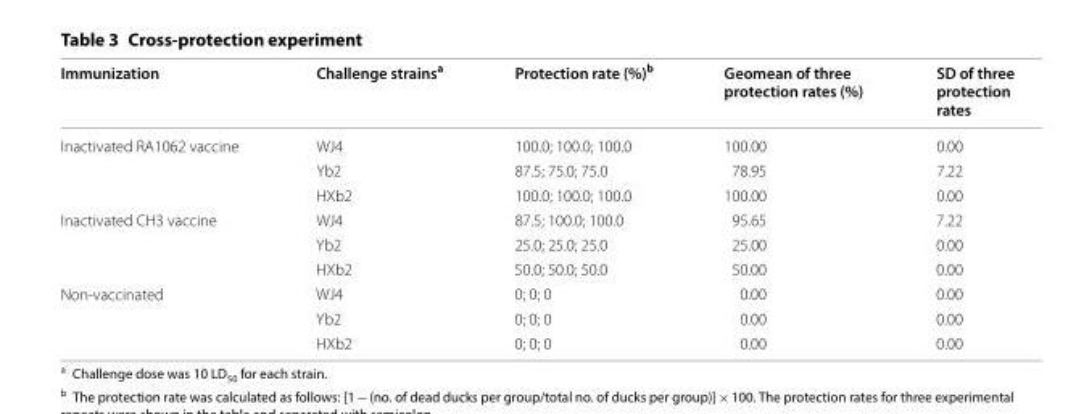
<table><thead><tr><td>Immunization</td><td>Challenge strains<sup>a</sup></td><td>Protection rate (%)<sup>b</sup></td><td>Geomean of three protection rates (%)</td><td>SD of three protection rates</td></tr></thead><tbody><tr><td rowspan="3">Inactivated RA1062 vaccine</td><td>WJ4</td><td>100.0; 100.0; 100.0</td><td>100.00</td><td>0.00</td></tr><tr><td>Yb2</td><td>87.5; 75.0; 75.0</td><td>78.95</td><td>7.22</td></tr><tr><td>HXb2</td><td>100.0; 100.0; 100.0</td><td>100.00</td><td>0.00</td></tr><tr><td rowspan="3">Inactivated CH3 vaccine</td><td>WJ4</td><td>87.5; 100.0; 100.0</td><td>95.65</td><td>7.22</td></tr><tr><td>Yb2</td><td>25.0; 25.0; 25.0</td><td>25.00</td><td>0.00</td></tr><tr><td>HXb2</td><td>50.0; 50.0; 50.0</td><td>50.00</td><td>0.00</td></tr><tr><td rowspan="3">Non-vaccinated</td><td>WJ4</td><td>0; 0; 0</td><td>0.00</td><td>0.00</td></tr><tr><td>Yb2</td><td>0; 0; 0</td><td>0.00</td><td>0.00</td></tr><tr><td>HXb2</td><td>0; 0; 0</td><td>0.00</td><td>0.00</td></tr></tbody></table>